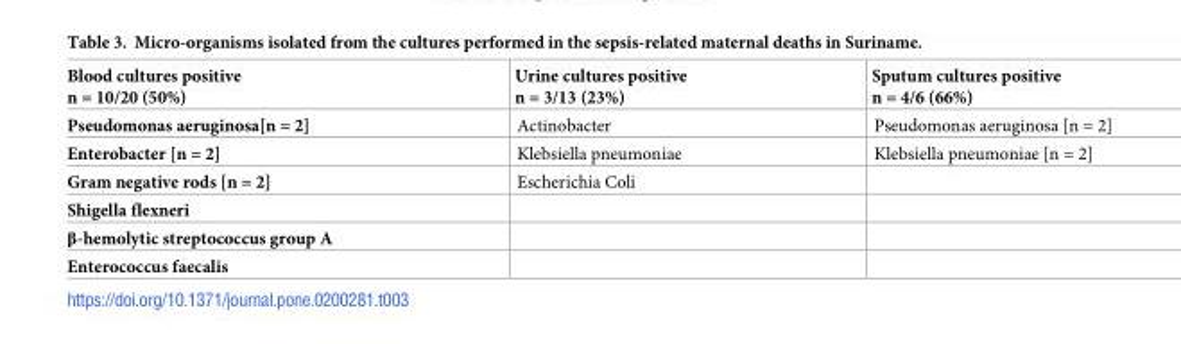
<table><thead><tr><td>Blood cultures positive n = 10/20 (50%)</td><td>Urine cultures positive n = 3/13 (23%)</td><td>Sputum cultures positive n = 4/6 (66%)</td></tr></thead><tbody><tr><td>Pseudomonas aeruginosa[n = 2]</td><td>Actinobacter</td><td>Pseudomonas aeruginosa [n = 2]</td></tr><tr><td>Enterobacter [n = 2]</td><td>Klebsiella pneumoniae</td><td>Klebsiella pneumoniae [n = 2]</td></tr><tr><td>Gram negative rods [n = 2]</td><td>Escherichia Coli</td><td></td></tr><tr><td colspan="3">Shigella flexneri</td></tr><tr><td colspan="3">β-hemolytic streptococcus group A</td></tr><tr><td>Enterococcus faecalis</td><td></td><td></td></tr></tbody></table>